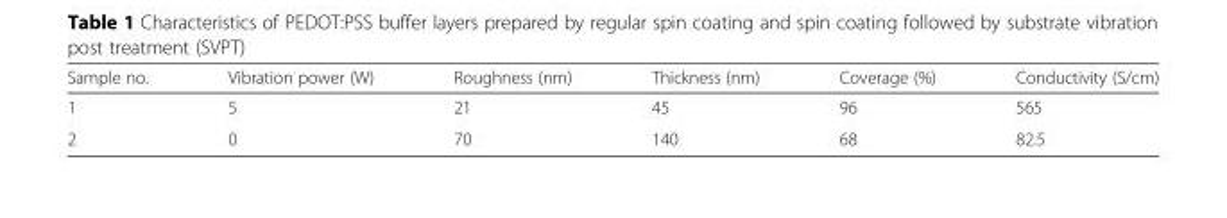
<table><thead><tr><td>Sample no.</td><td>Vibration power (W)</td><td>Roughness (nm)</td><td>Thickness (nm)</td><td>Coverage (%)</td><td>Conductivity (S/cm)</td></tr></thead><tbody><tr><td>1</td><td>5</td><td>21</td><td>45</td><td>96</td><td>565</td></tr><tr><td>2</td><td>0</td><td>70</td><td>140</td><td>68</td><td>82.5</td></tr></tbody></table>